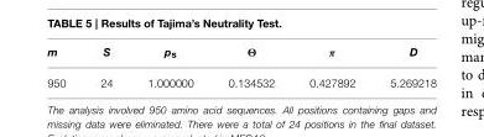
<table><thead><tr><td>m</td><td>S</td><td>p<sub>s</sub></td><td>Θ</td><td>π</td><td>D</td></tr></thead><tbody><tr><td>950</td><td>24</td><td>1.000000</td><td>0.134532</td><td>0.427892</td><td>5.269218</td></tr></tbody></table>